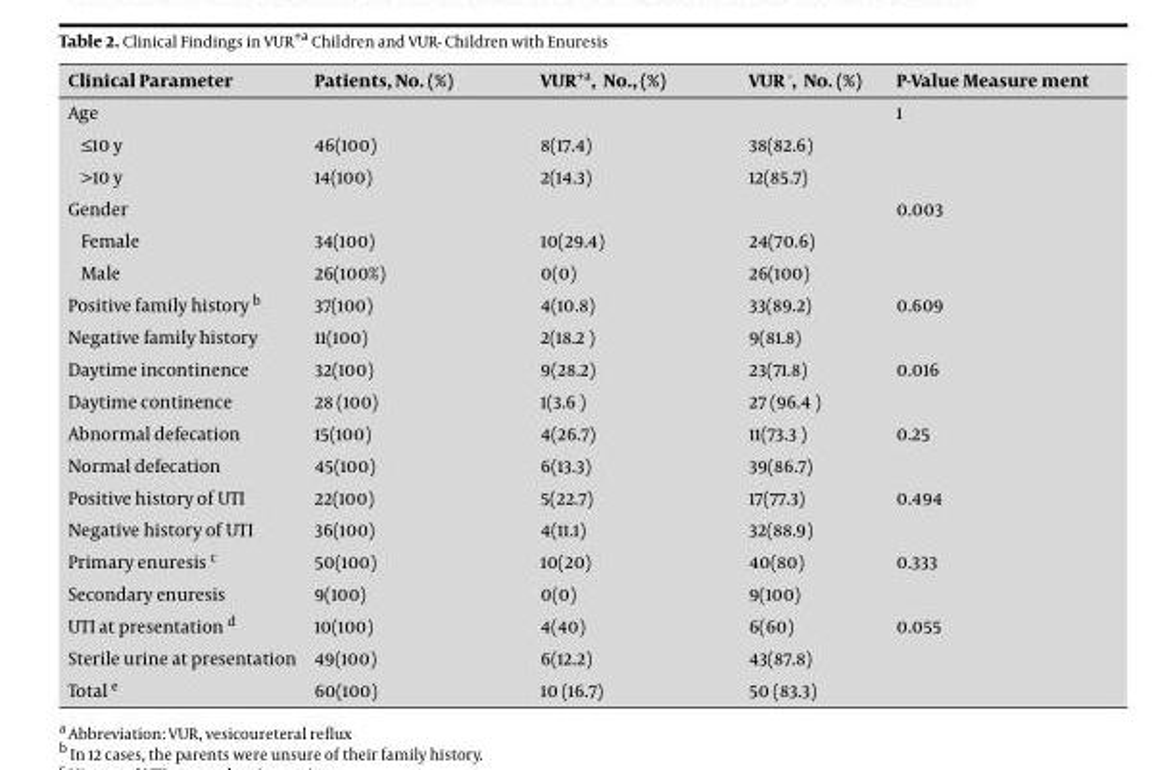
<table><thead><tr><td>Clinical Parameter</td><td>Patients, No. (%)</td><td>VUR+a, No., (%)</td><td>VUR <sup>-</sup>, No. (%)</td><td>P-Value Measure ment</td></tr></thead><tbody><tr><td>Age</td><td></td><td></td><td></td><td>1</td></tr><tr><td>≤10 y</td><td>46(100)</td><td>8(17.4)</td><td>38(82.6)</td><td></td></tr><tr><td>&gt;10 y</td><td>14(100)</td><td>2(14.3)</td><td>12(85.7)</td><td></td></tr><tr><td>Gender</td><td></td><td></td><td></td><td>0.003</td></tr><tr><td>Female</td><td>34(100)</td><td>10(29.4)</td><td>24(70.6)</td><td></td></tr><tr><td>Male</td><td>26(100%)</td><td>0(0)</td><td>26(100)</td><td></td></tr><tr><td>Positive family history <sup>b</sup></td><td>37(100)</td><td>4(10.8)</td><td>33(89.2)</td><td>0.609</td></tr><tr><td>Negative family history</td><td>11(100)</td><td>2(18.2 )</td><td>9(81.8)</td><td></td></tr><tr><td>Daytime incontinence</td><td>32(100)</td><td>9(28.2)</td><td>23(71.8)</td><td>0.016</td></tr><tr><td>Daytime continence</td><td>28 (100)</td><td>1(3.6 )</td><td>27 (96.4 )</td><td></td></tr><tr><td>Abnormal defecation</td><td>15(100)</td><td>4(26.7)</td><td>11(73.3 )</td><td>0.25</td></tr><tr><td>Normal defecation</td><td>45(100)</td><td>6(13.3)</td><td>39(86.7)</td><td></td></tr><tr><td>Positive history of UTI</td><td>22(100)</td><td>5(22.7)</td><td>17(77.3)</td><td>0.494</td></tr><tr><td>Negative history of UTI</td><td>36(100)</td><td>4(11.1)</td><td>32(88.9)</td><td></td></tr><tr><td>Primary enuresis <sup>c</sup></td><td>50(100)</td><td>10(20)</td><td>40(80)</td><td>0.333</td></tr><tr><td>Secondary enuresis</td><td>9(100)</td><td>0(0)</td><td>9(100)</td><td></td></tr><tr><td>UTI at presentation <sup>d</sup></td><td>10(100)</td><td>4(40)</td><td>6(60)</td><td>0.055</td></tr><tr><td>Sterile urine at presentation</td><td>49(100)</td><td>6(12.2)</td><td>43(87.8)</td><td></td></tr><tr><td>Total <sup>e</sup></td><td>60(100)</td><td>10 (16.7)</td><td>50 (83.3)</td><td></td></tr></tbody></table>